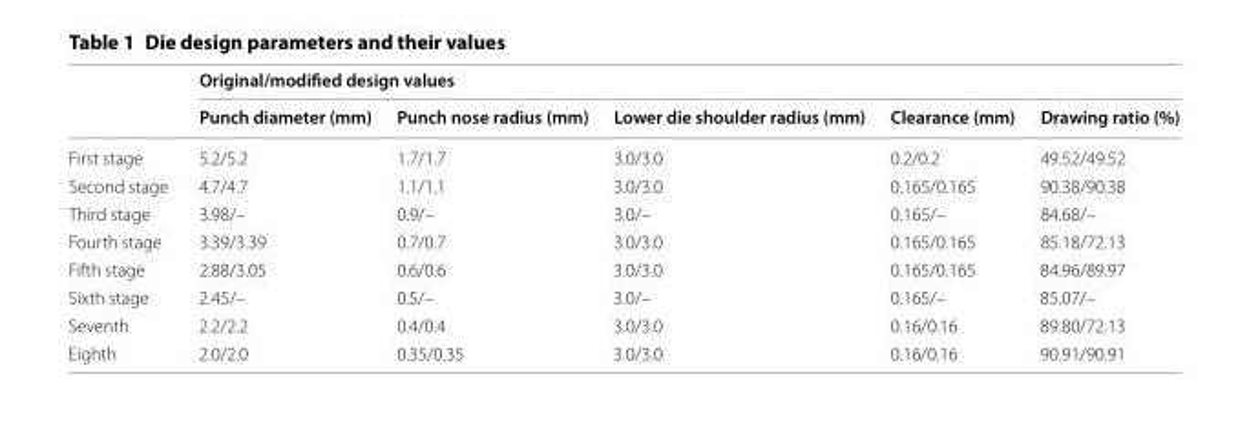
<table><thead><tr><td rowspan="2"></td><td colspan="5">Original/modified design values</td></tr><tr><td>Punch diameter (mm)</td><td>Punch nose radius (mm)</td><td>Lower die shoulder radius (mm)</td><td>Clearance (mm)</td><td>Drawing ratio (%)</td></tr></thead><tbody><tr><td>First stage</td><td>5.2/5.2</td><td>1.7/1.7</td><td>3.0/3.0</td><td>0.2/0.2</td><td>49.52/49.52</td></tr><tr><td>Second stage</td><td>4.7/4.7</td><td>1.1/1.1</td><td>3.0/3.0</td><td>0.165/0.165</td><td>90.38/90.38</td></tr><tr><td>Third stage</td><td>3.98/–</td><td>0.9/–</td><td>3.0/–</td><td>0.165/–</td><td>84.68/–</td></tr><tr><td>Fourth stage</td><td>3.39/3.39</td><td>0.7/0.7</td><td>3.0/3.0</td><td>0.165/0.165</td><td>85.18/72.13</td></tr><tr><td>Fifth stage</td><td>2.88/3.05</td><td>0.6/0.6</td><td>3.0/3.0</td><td>0.165/0.165</td><td>84.96/89.97</td></tr><tr><td>Sixth stage</td><td>2.45/–</td><td>0.5/–</td><td>3.0/–</td><td>0.165/–</td><td>85.07/–</td></tr><tr><td>Seventh</td><td>2.2/2.2</td><td>0.4/0.4</td><td>3.0/3.0</td><td>0.16/0.16</td><td>89.80/72.13</td></tr><tr><td>Eighth</td><td>2.0/2.0</td><td>0.35/0.35</td><td>3.0/3.0</td><td>0.16/0.16</td><td>90.91/90.91</td></tr></tbody></table>